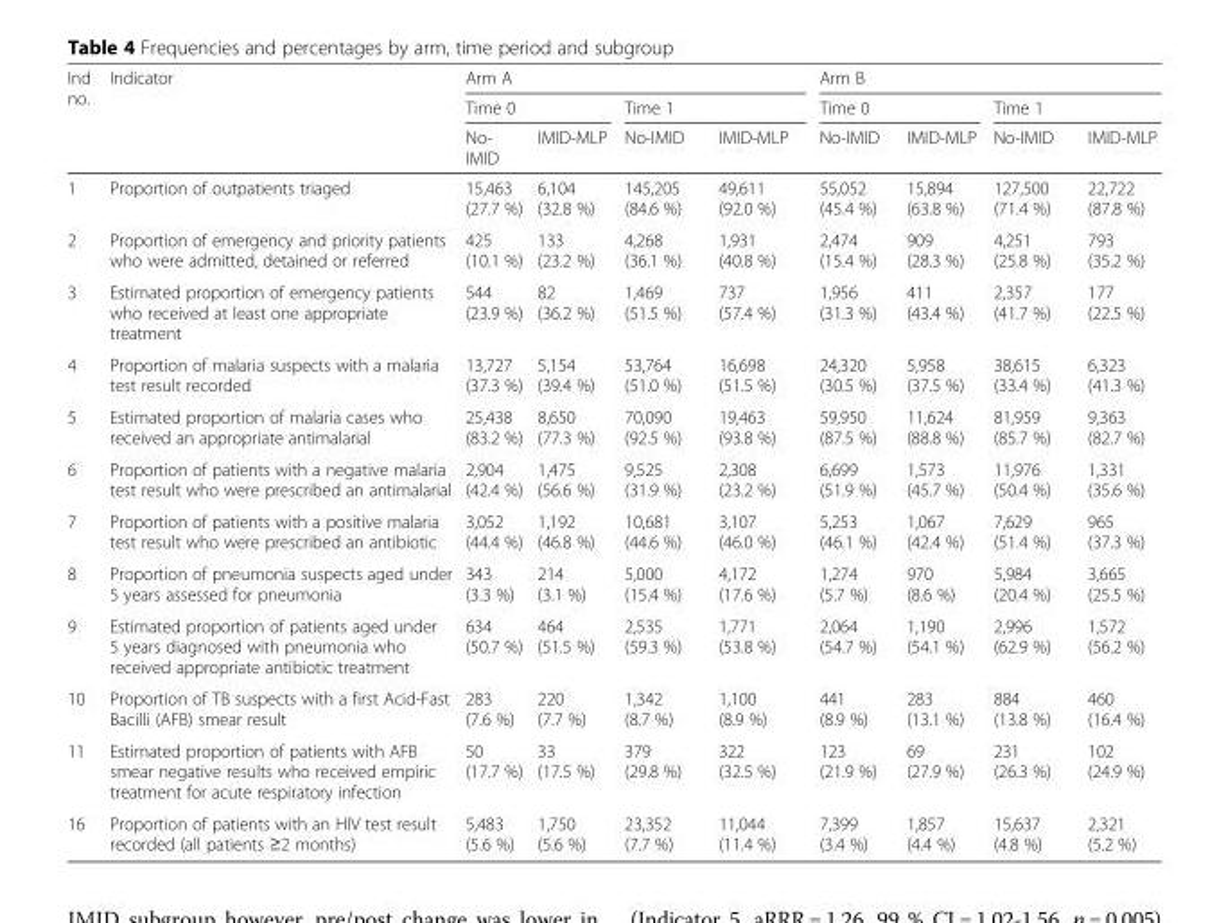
<table><thead><tr><td rowspan="3">Ind no.</td><td rowspan="3">Indicator</td><td colspan="4">Arm A</td><td colspan="4">Arm B</td></tr><tr><td colspan="2">Time 0</td><td colspan="2">Time 1</td><td colspan="2">Time 0</td><td colspan="2">Time 1</td></tr><tr><td>No- IMID</td><td>IMID-MLP</td><td>No-IMID</td><td>IMID-MLP</td><td>No-IMID</td><td>IMID-MLP</td><td>No-IMID</td><td>IMID-MLP</td></tr></thead><tbody><tr><td>1</td><td>Proportion of outpatients triaged</td><td>15,463 (27.7 %)</td><td>6,104 (32.8 %)</td><td>145,205 (84.6 %)</td><td>49,611 (92.0 %)</td><td>55,052 (45.4 %)</td><td>15,894 (63.8 %)</td><td>127,500 (71.4 %)</td><td>22,722 (87.8 %)</td></tr><tr><td>2</td><td>Proportion of emergency and priority patients who were admitted, detained or referred</td><td>425 (10.1 %)</td><td>133 (23.2 %)</td><td>4,268 (36.1 %)</td><td>1,931 (40.8 %)</td><td>2,474 (15.4 %)</td><td>909 (28.3 %)</td><td>4,251 (25.8 %)</td><td>793 (35.2 %)</td></tr><tr><td>3</td><td>Estimated proportion of emergency patients who received at least one appropriate treatment</td><td>544 (23.9 %)</td><td>82 (36.2 %)</td><td>1,469 (51.5 %)</td><td>737 (57.4 %)</td><td>1,956 (31.3 %)</td><td>411 (43.4 %)</td><td>2,357 (41.7 %)</td><td>177 (22.5 %)</td></tr><tr><td>4</td><td>Proportion of malaria suspects with a malaria test result recorded</td><td>13,727 (37.3 %)</td><td>5,154 (39.4 %)</td><td>53,764 (51.0 %)</td><td>16,698 (51.5 %)</td><td>24,320 (30.5 %)</td><td>5,958 (37.5 %)</td><td>38,615 (33.4 %)</td><td>6,323 (41.3 %)</td></tr><tr><td>5</td><td>Estimated proportion of malaria cases who received an appropriate antimalarial</td><td>25,438 (83.2 %)</td><td>8,650 (77.3 %)</td><td>70,090 (92.5 %)</td><td>19,463 (93.8 %)</td><td>59,950 (87.5 %)</td><td>11,624 (88.8 %)</td><td>81,959 (85.7 %)</td><td>9,363 (82.7 %)</td></tr><tr><td>6</td><td>Proportion of patients with a negative malaria test result who were prescribed an antimalarial</td><td>2,904 (42.4 %)</td><td>1,475 (56.6 %)</td><td>9,525 (31.9 %)</td><td>2,308 (23.2 %)</td><td>6,699 (51.9 %)</td><td>1,573 (45.7 %)</td><td>11,976 (50.4 %)</td><td>1,331 (35.6 %)</td></tr><tr><td>7</td><td>Proportion of patients with a positive malaria test result who were prescribed an antibiotic</td><td>3,052 (44.4 %)</td><td>1,192 (46.8 %)</td><td>10,681 (44.6 %)</td><td>3,107 (46.0 %)</td><td>5,253 (46.1 %)</td><td>1,067 (42.4 %)</td><td>7,629 (51.4 %)</td><td>965 (37.3 %)</td></tr><tr><td>8</td><td>Proportion of pneumonia suspects aged under 5 years assessed for pneumonia</td><td>343 (3.3 %)</td><td>214 (3.1 %)</td><td>5,000 (15.4 %)</td><td>4,172 (17.6 %)</td><td>1,274 (5.7 %)</td><td>970 (8.6 %)</td><td>5,984 (20.4 %)</td><td>3,665 (25.5 %)</td></tr><tr><td>9</td><td>Estimated proportion of patients aged under 5 years diagnosed with pneumonia who received appropriate antibiotic treatment</td><td>634 (50.7 %)</td><td>464 (51.5 %)</td><td>2,535 (59.3 %)</td><td>1,771 (53.8 %)</td><td>2,064 (54.7 %)</td><td>1,190 (54.1 %)</td><td>2,996 (62.9 %)</td><td>1,572 (56.2 %)</td></tr><tr><td>10</td><td>Proportion of TB suspects with a first Acid-Fast Bacilli (AFB) smear result</td><td>283 (7.6 %)</td><td>220 (7.7 %)</td><td>1,342 (8.7 %)</td><td>1,100 (8.9 %)</td><td>441 (8.9 %)</td><td>283 (13.1 %)</td><td>884 (13.8 %)</td><td>460 (16.4 %)</td></tr><tr><td>11</td><td>Estimated proportion of patients with AFB smear negative results who received empiric treatment for acute respiratory infection</td><td>50 (17.7 %)</td><td>33 (17.5 %)</td><td>379 (29.8 %)</td><td>322 (32.5 %)</td><td>123 (21.9 %)</td><td>69 (27.9 %)</td><td>231 (26.3 %)</td><td>102 (24.9 %)</td></tr><tr><td>16</td><td>Proportion of patients with an HIV test result recorded (all patients ≥2 months)</td><td>5,483 (5.6 %)</td><td>1,750 (5.6 %)</td><td>23,352 (7.7 %)</td><td>11,044 (11.4 %)</td><td>7,399 (3.4 %)</td><td>1,857 (4.4 %)</td><td>15,637 (4.8 %)</td><td>2,321 (5.2 %)</td></tr></tbody></table>